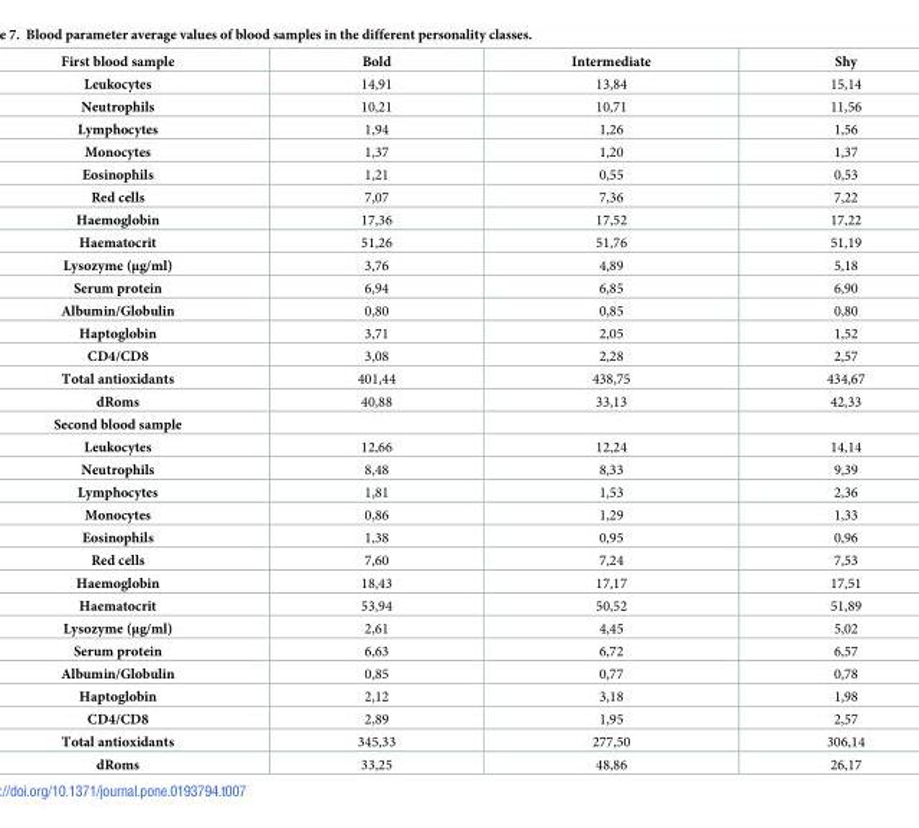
<table><thead><tr><td>First blood sample</td><td>Bold</td><td>Intermediate</td><td>Shy</td></tr></thead><tbody><tr><td>Leukocytes</td><td>14,91</td><td>13,84</td><td>15,14</td></tr><tr><td>Neutrophils</td><td>10,21</td><td>10,71</td><td>11,56</td></tr><tr><td>Lymphocytes</td><td>1,94</td><td>1,26</td><td>1,56</td></tr><tr><td>Monocytes</td><td>1,37</td><td>1,20</td><td>1,37</td></tr><tr><td>Eosinophils</td><td>1,21</td><td>0,55</td><td>0,53</td></tr><tr><td>Red cells</td><td>7,07</td><td>7,36</td><td>7,22</td></tr><tr><td>Haemoglobin</td><td>17,36</td><td>17,52</td><td>17,22</td></tr><tr><td>Haematocrit</td><td>51,26</td><td>51,76</td><td>51,19</td></tr><tr><td>Lysozyme (μg/ml)</td><td>3,76</td><td>4,89</td><td>5,18</td></tr><tr><td>Serum protein</td><td>6,94</td><td>6,85</td><td>6,90</td></tr><tr><td>Albumin/Globulin</td><td>0,80</td><td>0,85</td><td>0,80</td></tr><tr><td>Haptoglobin</td><td>3,71</td><td>2,05</td><td>1,52</td></tr><tr><td>CD4/CD8</td><td>3,08</td><td>2,28</td><td>2,57</td></tr><tr><td>Total antioxidants</td><td>401,44</td><td>438,75</td><td>434,67</td></tr><tr><td>dRoms</td><td>40,88</td><td>33,13</td><td>42,33</td></tr><tr><td colspan="4">Second blood sample</td></tr><tr><td>Leukocytes</td><td>12,66</td><td>12,24</td><td>14,14</td></tr><tr><td>Neutrophils</td><td>8,48</td><td>8,33</td><td>9,39</td></tr><tr><td>Lymphocytes</td><td>1,81</td><td>1,53</td><td>2,36</td></tr><tr><td>Monocytes</td><td>0,86</td><td>1,29</td><td>1,33</td></tr><tr><td>Eosinophils</td><td>1,38</td><td>0,95</td><td>0,96</td></tr><tr><td>Red cells</td><td>7,60</td><td>7,24</td><td>7,53</td></tr><tr><td>Haemoglobin</td><td>18,43</td><td>17,17</td><td>17,51</td></tr><tr><td>Haematocrit</td><td>53,94</td><td>50,52</td><td>51,89</td></tr><tr><td>Lysozyme (μg/ml)</td><td>2,61</td><td>4,45</td><td>5,02</td></tr><tr><td>Serum protein</td><td>6,63</td><td>6,72</td><td>6,57</td></tr><tr><td>Albumin/Globulin</td><td>0,85</td><td>0,77</td><td>0,78</td></tr><tr><td>Haptoglobin</td><td>2,12</td><td>3,18</td><td>1,98</td></tr><tr><td>CD4/CD8</td><td>2,89</td><td>1,95</td><td>2,57</td></tr><tr><td>Total antioxidants</td><td>345,33</td><td>277,50</td><td>306,14</td></tr><tr><td>dRoms</td><td>33,25</td><td>48,86</td><td>26,17</td></tr></tbody></table>